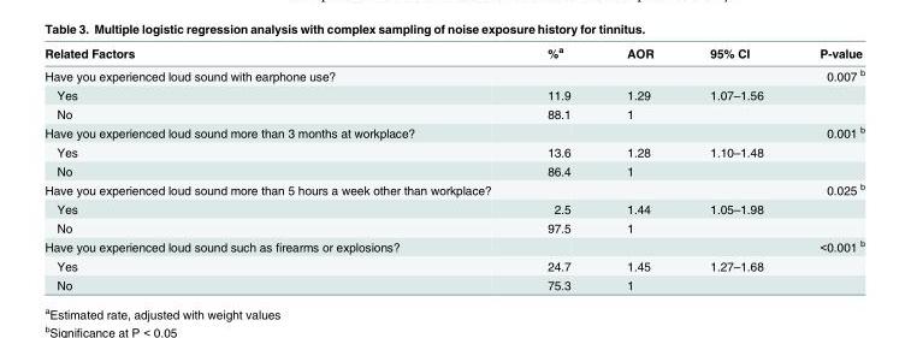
<table><thead><tr><td>Related Factors</td><td>%<sup>a</sup></td><td>AOR</td><td>95% CI</td><td>P-value</td></tr></thead><tbody><tr><td>Have you experienced loud sound with earphone use?</td><td></td><td></td><td></td><td>0.007 <sup>b</sup></td></tr><tr><td>Yes</td><td>11.9</td><td>1.29</td><td>1.07–1.56</td><td></td></tr><tr><td>No</td><td>88.1</td><td>1</td><td></td><td></td></tr><tr><td>Have you experienced loud sound more than 3 months at workplace?</td><td></td><td></td><td></td><td>0.001 <sup>b</sup></td></tr><tr><td>Yes</td><td>13.6</td><td>1.28</td><td>1.10–1.48</td><td></td></tr><tr><td>No</td><td>86.4</td><td>1</td><td></td><td></td></tr><tr><td>Have you experienced loud sound more than 5 hours a week other than workplace?</td><td></td><td></td><td></td><td>0.025 <sup>b</sup></td></tr><tr><td>Yes</td><td>2.5</td><td>1.44</td><td>1.05–1.98</td><td></td></tr><tr><td>No</td><td>97.5</td><td>1</td><td></td><td></td></tr><tr><td>Have you experienced loud sound such as firearms or explosions?</td><td></td><td></td><td></td><td>&lt;0.001 <sup>b</sup></td></tr><tr><td>Yes</td><td>24.7</td><td>1.45</td><td>1.27–1.68</td><td></td></tr><tr><td>No</td><td>75.3</td><td>1</td><td></td><td></td></tr></tbody></table>